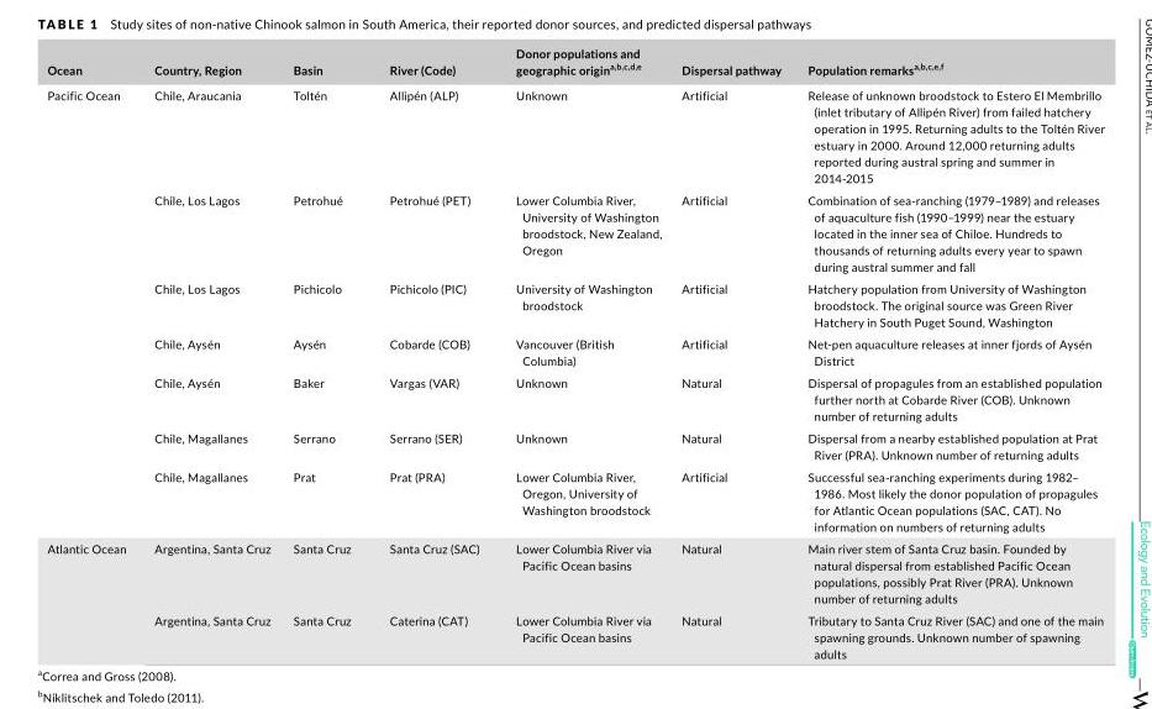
<table><thead><tr><td>Ocean</td><td>Country, Region</td><td>Basin</td><td>River (Code)</td><td>Donor populations and geographic origin<sup>a,</sup>b<sup>,</sup>c<sup>,</sup>d<sup>,</sup>e</td><td>Dispersal pathway</td><td>Population remarks<sup>a,</sup>b<sup>,</sup>c<sup>,</sup>e<sup>,</sup>f</td></tr></thead><tbody><tr><td rowspan="7">Pacific Ocean</td><td>Chile, Araucania</td><td>Toltén</td><td>Allipén (ALP)</td><td>Unknown</td><td>Artificial</td><td>Release of unknown broodstock to Estero El Membrillo (inlet tributary of Allipén River) from failed hatchery operation in 1995. Returning adults to the Toltén River estuary in 2000. Around 12,000 returning adults reported during austral spring and summer in 2014-2015</td></tr><tr><td>Chile, Los Lagos</td><td>Petrohué</td><td>Petrohué (PET)</td><td>Lower Columbia River, University of Washington broodstock, New Zealand, Oregon</td><td>Artificial</td><td>Combination of sea- ranching (1979–1989) and releases of aquaculture fish (1990–1999) near the estuary located in the inner sea of Chiloe. Hundreds to thousands of returning adults every year to spawn during austral summer and fall</td></tr><tr><td>Chile, Los Lagos</td><td>Pichicolo</td><td>Pichicolo (PIC)</td><td>University of Washington broodstock</td><td>Artificial</td><td>Hatchery population from University of Washington broodstock. The original source was Green River Hatchery in South Puget Sound, Washington</td></tr><tr><td>Chile, Aysén</td><td>Aysén</td><td>Cobarde (COB)</td><td>Vancouver (British Columbia)</td><td>Artificial</td><td>Net- pen aquaculture releases at inner fjords of Aysén District</td></tr><tr><td>Chile, Aysén</td><td>Baker</td><td>Vargas (VAR)</td><td>Unknown</td><td>Natural</td><td>Dispersal of propagules from an established population further north at Cobarde River (COB). Unknown number of returning adults</td></tr><tr><td>Chile, Magallanes</td><td>Serrano</td><td>Serrano (SER)</td><td>Unknown</td><td>Natural</td><td>Dispersal from a nearby established population at Prat River (PRA). Unknown number of returning adults</td></tr><tr><td>Chile, Magallanes</td><td>Prat</td><td>Prat (PRA)</td><td>Lower Columbia River, Oregon, University of Washington broodstock</td><td>Artificial</td><td>Successful sea- ranching experiments during 1982– 1986. Most likely the donor population of propagules for Atlantic Ocean populations (SAC, CAT). No information on numbers of returning adults</td></tr><tr><td rowspan="2">Atlantic Ocean</td><td>Argentina, Santa Cruz</td><td>Santa Cruz</td><td>Santa Cruz (SAC)</td><td>Lower Columbia River via Pacific Ocean basins</td><td>Natural</td><td>Main river stem of Santa Cruz basin. Founded by natural dispersal from established Pacific Ocean populations, possibly Prat River (PRA). Unknown number of returning adults</td></tr><tr><td>Argentina, Santa Cruz</td><td>Santa Cruz</td><td>Caterina (CAT)</td><td>Lower Columbia River via Pacific Ocean basins</td><td>Natural</td><td>Tributary to Santa Cruz River (SAC) and one of the main spawning grounds. Unknown number of spawning adults</td></tr></tbody></table>